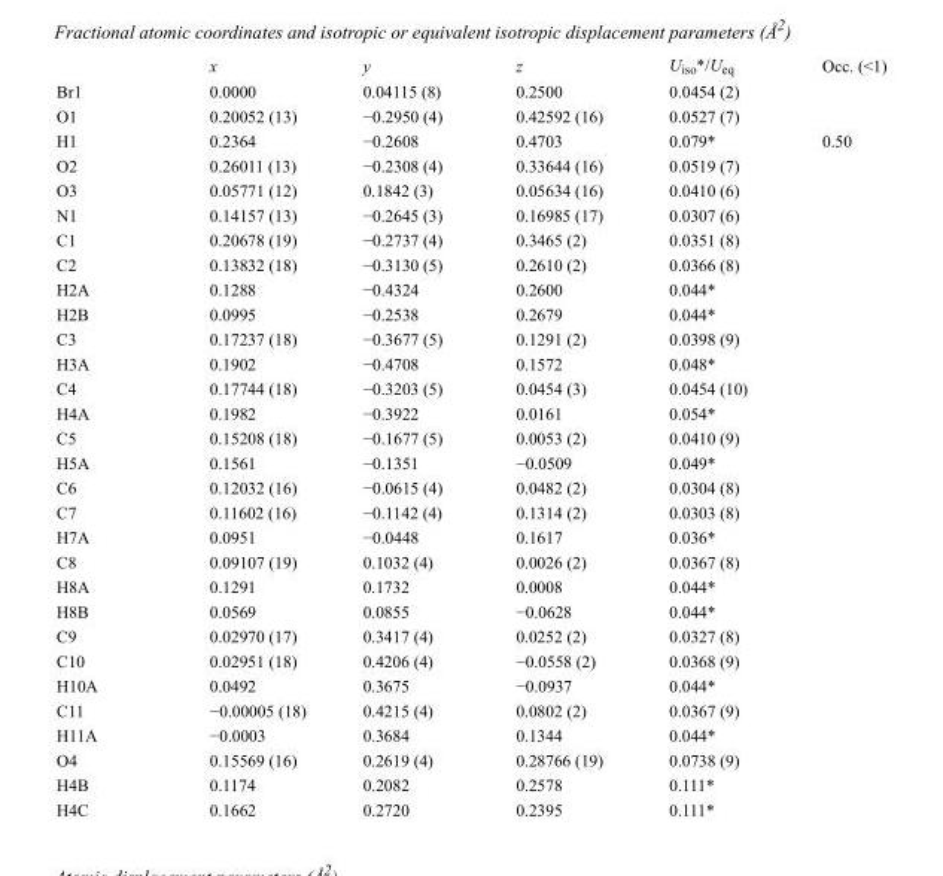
<table><thead><tr><td></td><td>x</td><td>y</td><td>z</td><td>U<sub>iso</sub>*/U<sub>eq</sub></td><td>Occ. (&lt;1)</td></tr></thead><tbody><tr><td>Br1</td><td>0.0000</td><td>0.04115 (8)</td><td>0.2500</td><td>0.0454 (2)</td><td></td></tr><tr><td>O1</td><td>0.20052 (13)</td><td>−0.2950 (4)</td><td>0.42592 (16)</td><td>0.0527 (7)</td><td></td></tr><tr><td>H1</td><td>0.2364</td><td>−0.2608</td><td>0.4703</td><td>0.079*</td><td>0.50</td></tr><tr><td>O2</td><td>0.26011 (13)</td><td>−0.2308 (4)</td><td>0.33644 (16)</td><td>0.0519 (7)</td><td></td></tr><tr><td>O3</td><td>0.05771 (12)</td><td>0.1842 (3)</td><td>0.05634 (16)</td><td>0.0410 (6)</td><td></td></tr><tr><td>N1</td><td>0.14157 (13)</td><td>−0.2645 (3)</td><td>0.16985 (17)</td><td>0.0307 (6)</td><td></td></tr><tr><td>C1</td><td>0.20678 (19)</td><td>−0.2737 (4)</td><td>0.3465 (2)</td><td>0.0351 (8)</td><td></td></tr><tr><td>C2</td><td>0.13832 (18)</td><td>−0.3130 (5)</td><td>0.2610 (2)</td><td>0.0366 (8)</td><td></td></tr><tr><td>H2A</td><td>0.1288</td><td>−0.4324</td><td>0.2600</td><td>0.044*</td><td></td></tr><tr><td>H2B</td><td>0.0995</td><td>−0.2538</td><td>0.2679</td><td>0.044*</td><td></td></tr><tr><td>C3</td><td>0.17237 (18)</td><td>−0.3677 (5)</td><td>0.1291 (2)</td><td>0.0398 (9)</td><td></td></tr><tr><td>H3A</td><td>0.1902</td><td>−0.4708</td><td>0.1572</td><td>0.048*</td><td></td></tr><tr><td>C4</td><td>0.17744 (18)</td><td>−0.3203 (5)</td><td>0.0454 (3)</td><td>0.0454 (10)</td><td></td></tr><tr><td>H4A</td><td>0.1982</td><td>−0.3922</td><td>0.0161</td><td>0.054*</td><td></td></tr><tr><td>C5</td><td>0.15208 (18)</td><td>−0.1677 (5)</td><td>0.0053 (2)</td><td>0.0410 (9)</td><td></td></tr><tr><td>H5A</td><td>0.1561</td><td>−0.1351</td><td>−0.0509</td><td>0.049*</td><td></td></tr><tr><td>C6</td><td>0.12032 (16)</td><td>−0.0615 (4)</td><td>0.0482 (2)</td><td>0.0304 (8)</td><td></td></tr><tr><td>C7</td><td>0.11602 (16)</td><td>−0.1142 (4)</td><td>0.1314 (2)</td><td>0.0303 (8)</td><td></td></tr><tr><td>H7A</td><td>0.0951</td><td>−0.0448</td><td>0.1617</td><td>0.036*</td><td></td></tr><tr><td>C8</td><td>0.09107 (19)</td><td>0.1032 (4)</td><td>0.0026 (2)</td><td>0.0367 (8)</td><td></td></tr><tr><td>H8A</td><td>0.1291</td><td>0.1732</td><td>0.0008</td><td>0.044*</td><td></td></tr><tr><td>H8B</td><td>0.0569</td><td>0.0855</td><td>−0.0628</td><td>0.044*</td><td></td></tr><tr><td>C9</td><td>0.02970 (17)</td><td>0.3417 (4)</td><td>0.0252 (2)</td><td>0.0327 (8)</td><td></td></tr><tr><td>C10</td><td>0.02951 (18)</td><td>0.4206 (4)</td><td>−0.0558 (2)</td><td>0.0368 (9)</td><td></td></tr><tr><td>H10A</td><td>0.0492</td><td>0.3675</td><td>−0.0937</td><td>0.044*</td><td></td></tr><tr><td>C11</td><td>−0.00005 (18)</td><td>0.4215 (4)</td><td>0.0802 (2)</td><td>0.0367 (9)</td><td></td></tr><tr><td>H11A</td><td>−0.0003</td><td>0.3684</td><td>0.1344</td><td>0.044*</td><td></td></tr><tr><td>O4</td><td>0.15569 (16)</td><td>0.2619 (4)</td><td>0.28766 (19)</td><td>0.0738 (9)</td><td></td></tr><tr><td>H4B</td><td>0.1174</td><td>0.2082</td><td>0.2578</td><td>0.111*</td><td></td></tr><tr><td>H4C</td><td>0.1662</td><td>0.2720</td><td>0.2395</td><td>0.111*</td><td></td></tr></tbody></table>